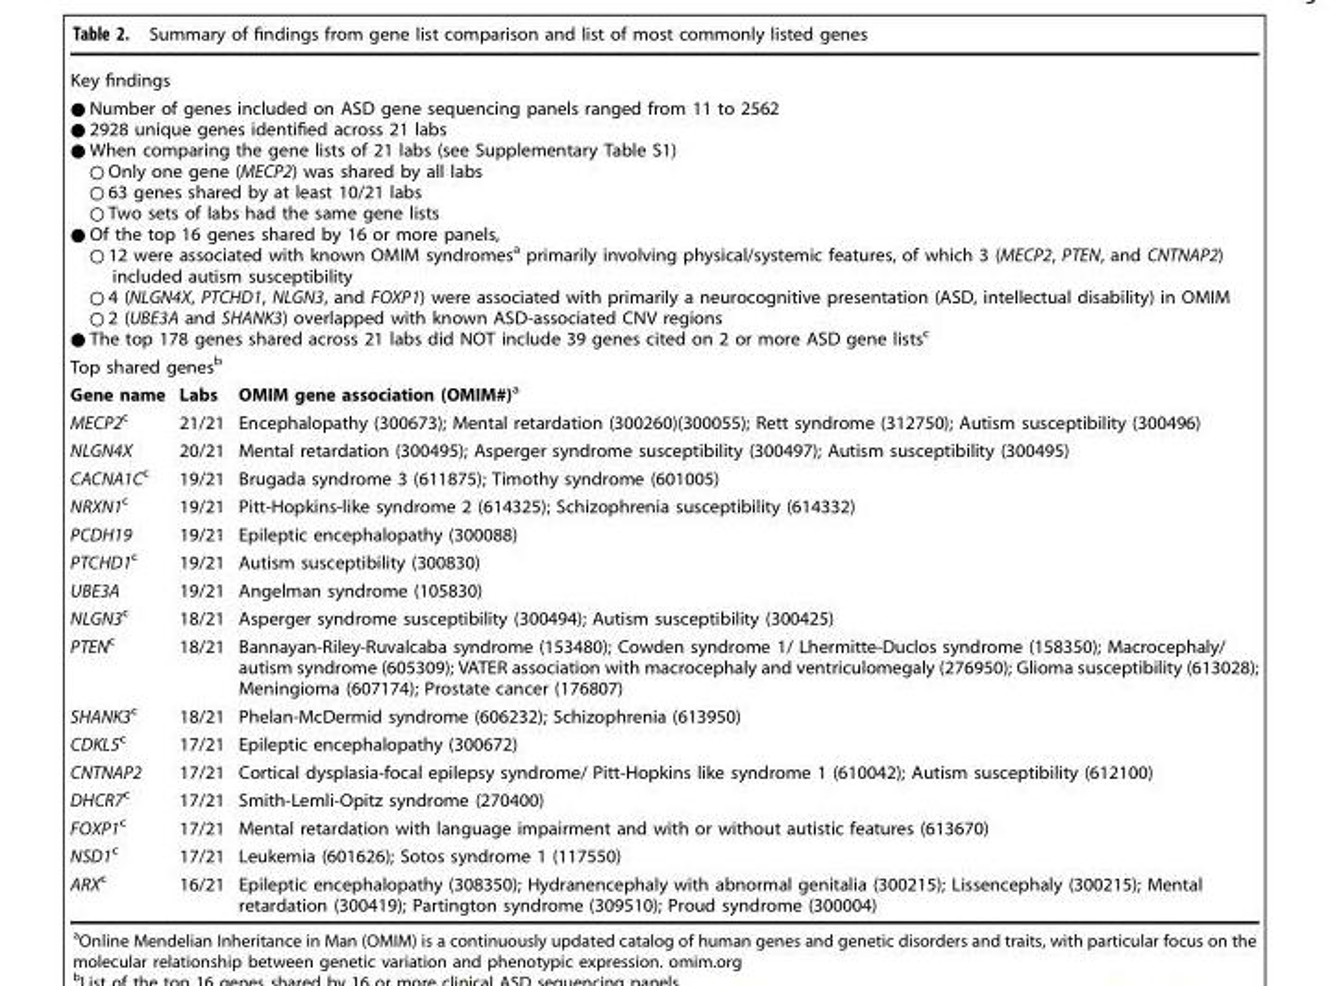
<table><tbody><tr><td colspan="3">Key findings</td></tr><tr><td colspan="3">● Number of genes included on ASD gene sequencing panels ranged from 11 to 2562 ● 2928 unique genes identified across 21 labs ● When comparing the gene lists of 21 labs (see Supplementary Table S1) ○ Only one gene (MECP2) was shared by all labs ○ 63 genes shared by at least 10/21 labs ○ Two sets of labs had the same gene lists ● Of the top 16 genes shared by 16 or more panels, ○ 12 were associated with known OMIM syndromes<sup>a</sup> primarily involving physical/systemic features, of which 3 (MECP2, PTEN, and CNTNAP2) included autism susceptibility ○ 4 (NLGN4X, PTCHD1, NLGN3, and FOXP1) were associated with primarily a neurocognitive presentation (ASD, intellectual disability) in OMIM ○ 2 (UBE3A and SHANK3) overlapped with known ASD-associated CNV regions ● The top 178 genes shared across 21 labs did NOT include 39 genes cited on 2 or more ASD gene lists<sup>c</sup></td></tr><tr><td colspan="3">Top shared genes<sup>b</sup></td></tr><tr><td>Gene name</td><td>Labs</td><td>OMIM gene association (OMIM#)<sup>a</sup></td></tr><tr><td>MECP2<sup>c</sup></td><td>21/21</td><td>Encephalopathy (300673); Mental retardation (300260)(300055); Rett syndrome (312750); Autism susceptibility (300496)</td></tr><tr><td>NLGN4X</td><td>20/21</td><td>Mental retardation (300495); Asperger syndrome susceptibility (300497); Autism susceptibility (300495)</td></tr><tr><td>CACNA1C<sup>c</sup></td><td>19/21</td><td>Brugada syndrome 3 (611875); Timothy syndrome (601005)</td></tr><tr><td>NRXN1<sup>c</sup></td><td>19/21</td><td>Pitt-Hopkins-like syndrome 2 (614325); Schizophrenia susceptibility (614332)</td></tr><tr><td>PCDH19</td><td>19/21</td><td>Epileptic encephalopathy (300088)</td></tr><tr><td>PTCHD1<sup>c</sup></td><td>19/21</td><td>Autism susceptibility (300830)</td></tr><tr><td>UBE3A</td><td>19/21</td><td>Angelman syndrome (105830)</td></tr><tr><td>NLGN3<sup>c</sup></td><td>18/21</td><td>Asperger syndrome susceptibility (300494); Autism susceptibility (300425)</td></tr><tr><td>PTEN<sup>c</sup></td><td>18/21</td><td>Bannayan-Riley-Ruvalcaba syndrome (153480); Cowden syndrome 1/ Lhermitte-Duclos syndrome (158350); Macrocephaly/ autism syndrome (605309); VATER association with macrocephaly and ventriculomegaly (276950); Glioma susceptibility (613028); Meningioma (607174); Prostate cancer (176807)</td></tr><tr><td>SHANK3<sup>c</sup></td><td>18/21</td><td>Phelan-McDermid syndrome (606232); Schizophrenia (613950)</td></tr><tr><td>CDKL5<sup>c</sup></td><td>17/21</td><td>Epileptic encephalopathy (300672)</td></tr><tr><td>CNTNAP2</td><td>17/21</td><td>Cortical dysplasia-focal epilepsy syndrome/ Pitt-Hopkins like syndrome 1 (610042); Autism susceptibility (612100)</td></tr><tr><td>DHCR7<sup>c</sup></td><td>17/21</td><td>Smith-Lemli-Opitz syndrome (270400)</td></tr><tr><td>FOXP1<sup>c</sup></td><td>17/21</td><td>Mental retardation with language impairment and with or without autistic features (613670)</td></tr><tr><td>NSD1<sup>c</sup></td><td>17/21</td><td>Leukemia (601626); Sotos syndrome 1 (117550)</td></tr><tr><td>ARX<sup>c</sup></td><td>16/21</td><td>Epileptic encephalopathy (308350); Hydranencephaly with abnormal genitalia (300215); Lissencephaly (300215); Mental retardation (300419); Partington syndrome (309510); Proud syndrome (300004)</td></tr></tbody></table>